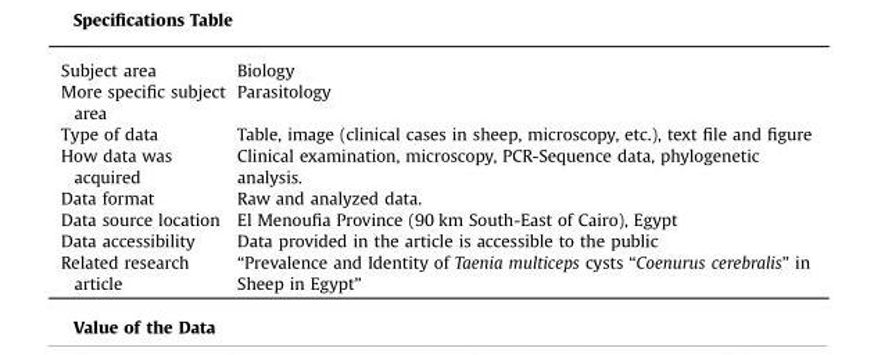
<table><tbody><tr><td>Subject area</td><td>Biology</td></tr><tr><td>More specific subject area</td><td>Parasitology</td></tr><tr><td>Type of data</td><td>Table, image (clinical cases in sheep, microscopy, etc.), text file and figure</td></tr><tr><td>How data was acquired</td><td>Clinical examination, microscopy, PCR-Sequence data, phylogenetic analysis.</td></tr><tr><td>Data format</td><td>Raw and analyzed data.</td></tr><tr><td>Data source location</td><td>El Menoufia Province (90 km South-East of Cairo), Egypt</td></tr><tr><td>Data accessibility</td><td>Data provided in the article is accessible to the public</td></tr><tr><td>Related research article</td><td>“Prevalence and Identity of Taenia multiceps cysts “Coenurus cerebralis” in Sheep in Egypt”</td></tr></tbody></table>